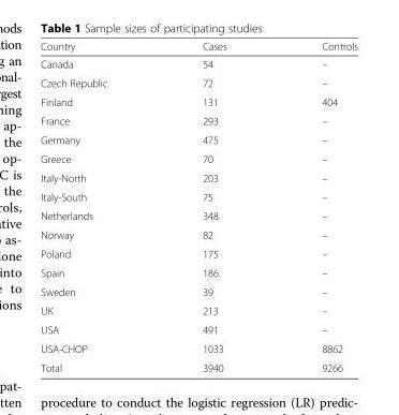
<table><thead><tr><td>Country</td><td>Cases</td><td>Controls</td></tr></thead><tbody><tr><td>Canada</td><td>54</td><td>–</td></tr><tr><td>Czech Republic</td><td>72</td><td>–</td></tr><tr><td>Finland</td><td>131</td><td>404</td></tr><tr><td>France</td><td>293</td><td>–</td></tr><tr><td>Germany</td><td>475</td><td>–</td></tr><tr><td>Greece</td><td>70</td><td>–</td></tr><tr><td>Italy-North</td><td>203</td><td>–</td></tr><tr><td>Italy-South</td><td>75</td><td>–</td></tr><tr><td>Netherlands</td><td>348</td><td>–</td></tr><tr><td>Norway</td><td>82</td><td>–</td></tr><tr><td>Poland</td><td>175</td><td>–</td></tr><tr><td>Spain</td><td>186</td><td>–</td></tr><tr><td>Sweden</td><td>39</td><td>–</td></tr><tr><td>UK</td><td>213</td><td>–</td></tr><tr><td>USA</td><td>491</td><td>–</td></tr><tr><td>USA-CHOP</td><td>1033</td><td>8862</td></tr><tr><td>Total</td><td>3940</td><td>9266</td></tr></tbody></table>